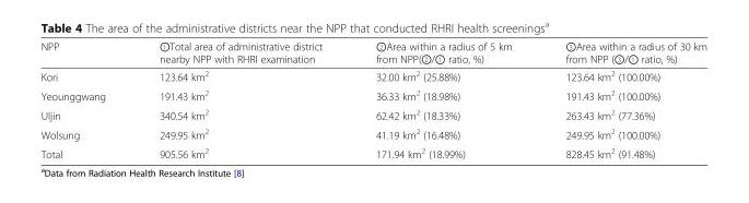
<table><thead><tr><td>NPP</td><td>①Total area of administrative district nearby NPP with RHRI examination</td><td>②Area within a radius of 5 km from NPP(②/① ratio, %)</td><td>③Area within a radius of 30 km from NPP (③/① ratio, %)</td></tr></thead><tbody><tr><td>Kori</td><td>123.64 km<sup>2</sup></td><td>32.00 km<sup>2</sup> (25.88%)</td><td>123.64 km<sup>2</sup> (100.00%)</td></tr><tr><td>Yeounggwang</td><td>191.43 km<sup>2</sup></td><td>36.33 km<sup>2</sup> (18.98%)</td><td>191.43 km<sup>2</sup> (100.00%)</td></tr><tr><td>Uljin</td><td>340.54 km<sup>2</sup></td><td>62.42 km<sup>2</sup> (18.33%)</td><td>263.43 km<sup>2</sup> (77.36%)</td></tr><tr><td>Wolsung</td><td>249.95 km<sup>2</sup></td><td>41.19 km<sup>2</sup> (16.48%)</td><td>249.95 km<sup>2</sup> (100.00%)</td></tr><tr><td>Total</td><td>905.56 km<sup>2</sup></td><td>171.94 km<sup>2</sup> (18.99%)</td><td>828.45 km<sup>2</sup> (91.48%)</td></tr></tbody></table>